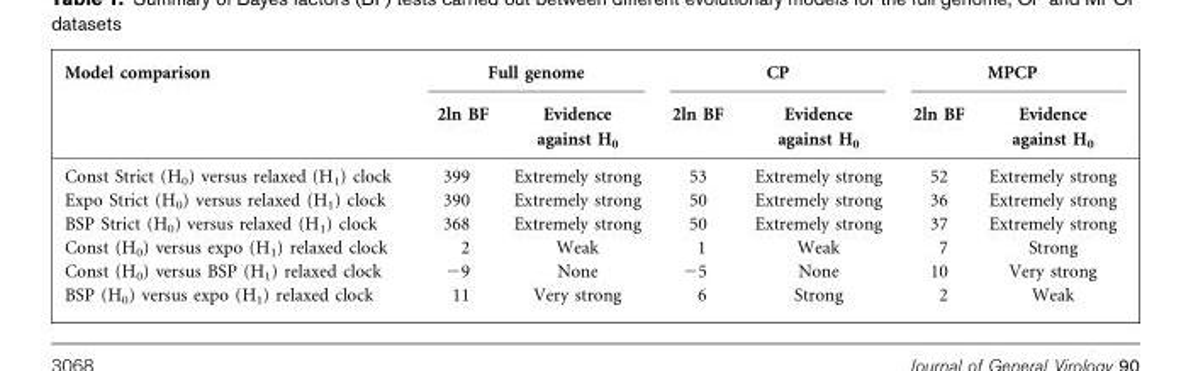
<table><thead><tr><td rowspan="2">Model comparison</td><td colspan="2">Full genome</td><td colspan="2">CP</td><td colspan="2">MPCP</td></tr><tr><td>2ln BF</td><td>Evidence against H<sub>0</sub></td><td>2ln BF</td><td>Evidence against H<sub>0</sub></td><td>2ln BF</td><td>Evidence against H<sub>0</sub></td></tr></thead><tbody><tr><td>Const Strict (H<sub>0</sub>) versus relaxed (H<sub>1</sub>) clock</td><td>399</td><td>Extremely strong</td><td>53</td><td>Extremely strong</td><td>52</td><td>Extremely strong</td></tr><tr><td>Expo Strict (H<sub>0</sub>) versus relaxed (H<sub>1</sub>) clock</td><td>390</td><td>Extremely strong</td><td>50</td><td>Extremely strong</td><td>36</td><td>Extremely strong</td></tr><tr><td>BSP Strict (H<sub>0</sub>) versus relaxed (H<sub>1</sub>) clock</td><td>368</td><td>Extremely strong</td><td>50</td><td>Extremely strong</td><td>37</td><td>Extremely strong</td></tr><tr><td>Const (H<sub>0</sub>) versus expo (H<sub>1</sub>) relaxed clock</td><td>2</td><td>Weak</td><td>1</td><td>Weak</td><td>7</td><td>Strong</td></tr><tr><td>Const (H<sub>0</sub>) versus BSP (H<sub>1</sub>) relaxed clock</td><td>−9</td><td>None</td><td>−5</td><td>None</td><td>10</td><td>Very strong</td></tr><tr><td>BSP (H<sub>0</sub>) versus expo (H<sub>1</sub>) relaxed clock</td><td>11</td><td>Very strong</td><td>6</td><td>Strong</td><td>2</td><td>Weak</td></tr></tbody></table>